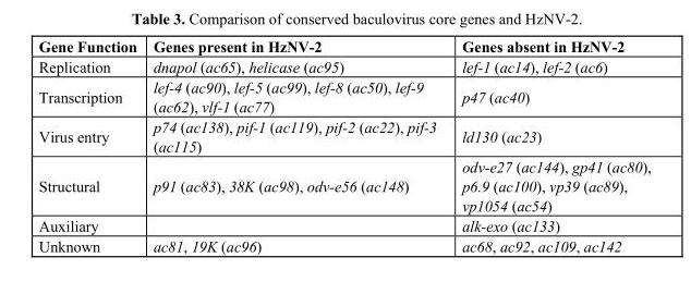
<table><thead><tr><td>Gene Function</td><td>Genes present in HzNV-2</td><td>Genes absent in HzNV-2</td></tr></thead><tbody><tr><td>Replication</td><td>dnapol (ac65), helicase (ac95)</td><td>lef-1 (ac14), lef-2 (ac6)</td></tr><tr><td>Transcription</td><td>lef-4 (ac90), lef-5 (ac99), lef-8 (ac50), lef-9 (ac62), vlf-1 (ac77)</td><td>p47 (ac40)</td></tr><tr><td>Virus entry</td><td>p74 (ac138), pif-1 (ac119), pif-2 (ac22), pif-3 (ac115)</td><td>ld130 (ac23)</td></tr><tr><td>Structural</td><td>p91 (ac83), 38K (ac98), odv-e56 (ac148)</td><td>odv-e27 (ac144), gp41 (ac80), p6.9 (ac100), vp39 (ac89), vp1054 (ac54)</td></tr><tr><td>Auxiliary</td><td></td><td>alk-exo (ac133)</td></tr><tr><td>Unknown</td><td>ac81, 19K (ac96)</td><td>ac68, ac92, ac109, ac142</td></tr></tbody></table>